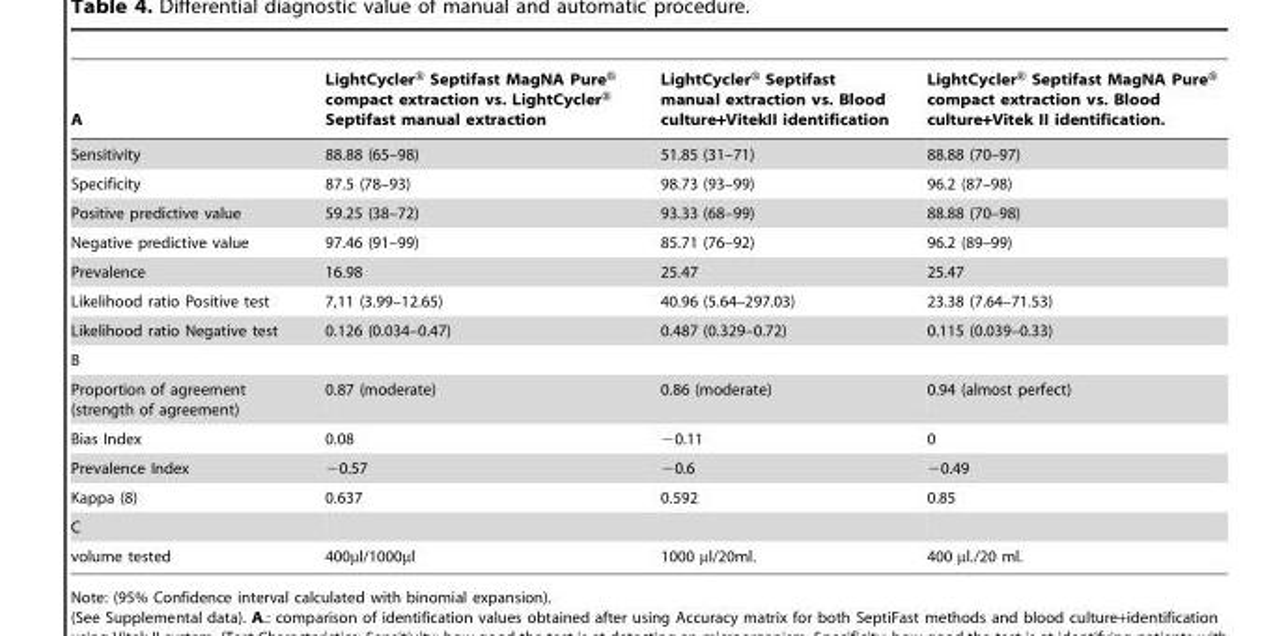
<table><thead><tr><td>A</td><td>LightCycler® Septifast MagNA Pure® compact extraction vs. LightCycler® Septifast manual extraction</td><td>LightCycler® Septifast manual extraction vs. Blood culture+VitekII identification</td><td>LightCycler® Septifast MagNA Pure® compact extraction vs. Blood culture+Vitek II identification.</td></tr></thead><tbody><tr><td>Sensitivity</td><td>88.88 (65–98)</td><td>51.85 (31–71)</td><td>88.88 (70–97)</td></tr><tr><td>Specificity</td><td>87.5 (78–93)</td><td>98.73 (93–99)</td><td>96.2 (87–98)</td></tr><tr><td>Positive predictive value</td><td>59.25 (38–72)</td><td>93.33 (68–99)</td><td>88.88 (70–98)</td></tr><tr><td>Negative predictive value</td><td>97.46 (91–99)</td><td>85.71 (76–92)</td><td>96.2 (89–99)</td></tr><tr><td>Prevalence</td><td>16.98</td><td>25.47</td><td>25.47</td></tr><tr><td>Likelihood ratio Positive test</td><td>7,11 (3.99–12.65)</td><td>40.96 (5.64–297.03)</td><td>23.38 (7.64–71.53)</td></tr><tr><td>Likelihood ratio Negative test</td><td>0.126 (0.034–0.47)</td><td>0.487 (0.329–0.72)</td><td>0.115 (0.039–0.33)</td></tr><tr><td colspan="4">B</td></tr><tr><td>Proportion of agreement (strength of agreement)</td><td>0.87 (moderate)</td><td>0.86 (moderate)</td><td>0.94 (almost perfect)</td></tr><tr><td>Bias Index</td><td>0.08</td><td>−0.11</td><td>0</td></tr><tr><td>Prevalence Index</td><td>−0.57</td><td>−0.6</td><td>−0.49</td></tr><tr><td>Kappa (8)</td><td>0.637</td><td>0.592</td><td>0.85</td></tr><tr><td colspan="4">C</td></tr><tr><td>volume tested</td><td>400µl/1000µl</td><td>1000 µl/20ml.</td><td>400 µl./20 ml.</td></tr></tbody></table>